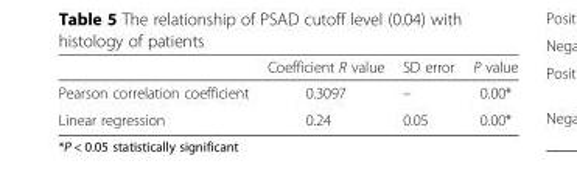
<table><thead><tr><td></td><td>Coefficient R value</td><td>SD error</td><td>P value</td></tr></thead><tbody><tr><td>Pearson correlation coefficient</td><td>0.3097</td><td>–</td><td>0.00*</td></tr><tr><td>Linear regression</td><td>0.24</td><td>0.05</td><td>0.00*</td></tr></tbody></table>